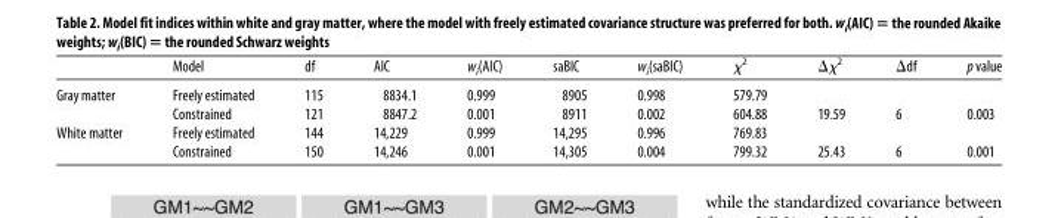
<table><thead><tr><td></td><td>Model</td><td>df</td><td>AIC</td><td>w<sub>i</sub>(AIC)</td><td>saBIC</td><td>w<sub>i</sub>(saBIC)</td><td>χ<sup>2</sup></td><td>Δχ<sup>2</sup></td><td>Δdf</td><td>pvalue</td></tr></thead><tbody><tr><td rowspan="2">Gray matter</td><td>Freely estimated</td><td>115</td><td>8834.1</td><td>0.999</td><td>8905</td><td>0.998</td><td>579.79</td><td></td><td></td><td></td></tr><tr><td>Constrained</td><td>121</td><td>8847.2</td><td>0.001</td><td>8911</td><td>0.002</td><td>604.88</td><td>19.59</td><td>6</td><td>0.003</td></tr><tr><td rowspan="2">White matter</td><td>Freely estimated</td><td>144</td><td>14,229</td><td>0.999</td><td>14,295</td><td>0.996</td><td>769.83</td><td></td><td></td><td></td></tr><tr><td>Constrained</td><td>150</td><td>14,246</td><td>0.001</td><td>14,305</td><td>0.004</td><td>799.32</td><td>25.43</td><td>6</td><td>0.001</td></tr></tbody></table>